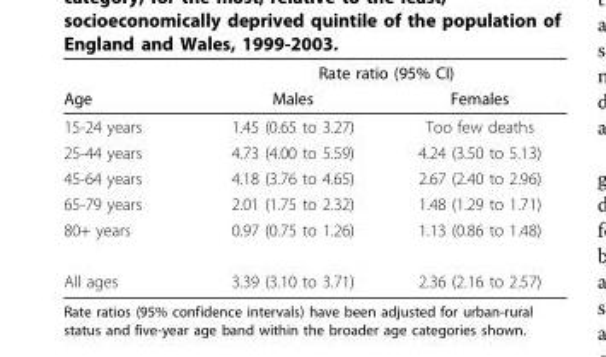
<table><thead><tr><td rowspan="2">Age</td><td colspan="2">Rate ratio (95% CI)</td></tr><tr><td>Males</td><td>Females</td></tr></thead><tbody><tr><td>15-24 years</td><td>1.45 (0.65 to 3.27)</td><td>Too few deaths</td></tr><tr><td>25-44 years</td><td>4.73 (4.00 to 5.59)</td><td>4.24 (3.50 to 5.13)</td></tr><tr><td>45-64 years</td><td>4.18 (3.76 to 4.65)</td><td>2.67 (2.40 to 2.96)</td></tr><tr><td>65-79 years</td><td>2.01 (1.75 to 2.32)</td><td>1.48 (1.29 to 1.71)</td></tr><tr><td>80+ years</td><td>0.97 (0.75 to 1.26)</td><td>1.13 (0.86 to 1.48)</td></tr><tr><td>All ages</td><td>3.39 (3.10 to 3.71)</td><td>2.36 (2.16 to 2.57)</td></tr></tbody></table>